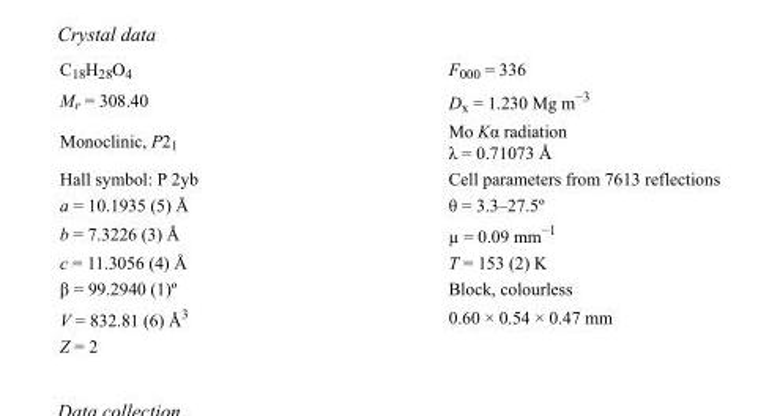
<table><tbody><tr><td>C<sub>18</sub>H<sub>28</sub>O<sub>4</sub></td><td>F<sub>000</sub> = 336</td></tr><tr><td>M<sub>r</sub> = 308.40</td><td>D<sub>x</sub> = 1.230 Mg m<sup>−3</sup></td></tr><tr><td>Monoclinic, P2<sub>1</sub></td><td>Mo Kα radiation λ = 0.71073 Å</td></tr><tr><td>Hall symbol: P 2yb</td><td>Cell parameters from 7613 reflections</td></tr><tr><td>a = 10.1935 (5) Å</td><td>θ = 3.3–27.5º</td></tr><tr><td>b = 7.3226 (3) Å</td><td>µ = 0.09 mm<sup>−1</sup></td></tr><tr><td>c = 11.3056 (4) Å</td><td>T = 153 (2) K</td></tr><tr><td>β = 99.2940 (1)º</td><td>Block, colourless</td></tr><tr><td>V = 832.81 (6) Å<sup>3</sup></td><td>0.60 × 0.54 × 0.47 mm</td></tr><tr><td>Z = 2</td><td></td></tr></tbody></table>